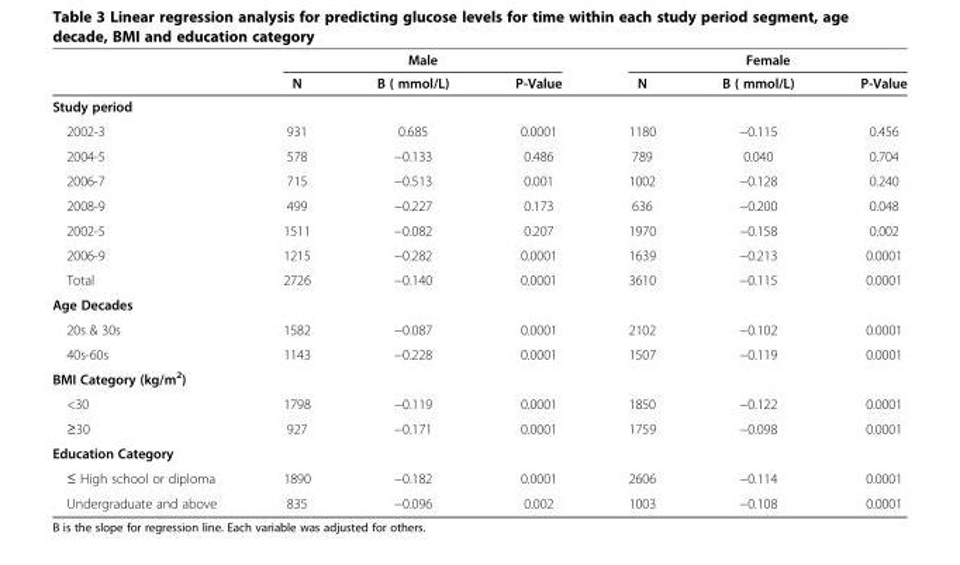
<table><thead><tr><td rowspan="2"></td><td colspan="3">Male</td><td colspan="3">Female</td></tr><tr><td>N</td><td>B ( mmol/L)</td><td>P-Value</td><td>N</td><td>B ( mmol/L)</td><td>P-Value</td></tr></thead><tbody><tr><td colspan="7">Study period</td></tr><tr><td>2002-3</td><td>931</td><td>0.685</td><td>0.0001</td><td>1180</td><td>−0.115</td><td>0.456</td></tr><tr><td>2004-5</td><td>578</td><td>−0.133</td><td>0.486</td><td>789</td><td>0.040</td><td>0.704</td></tr><tr><td>2006-7</td><td>715</td><td>−0.513</td><td>0.001</td><td>1002</td><td>−0.128</td><td>0.240</td></tr><tr><td>2008-9</td><td>499</td><td>−0.227</td><td>0.173</td><td>636</td><td>−0.200</td><td>0.048</td></tr><tr><td>2002-5</td><td>1511</td><td>−0.082</td><td>0.207</td><td>1970</td><td>−0.158</td><td>0.002</td></tr><tr><td>2006-9</td><td>1215</td><td>−0.282</td><td>0.0001</td><td>1639</td><td>−0.213</td><td>0.0001</td></tr><tr><td>Total</td><td>2726</td><td>−0.140</td><td>0.0001</td><td>3610</td><td>−0.115</td><td>0.0001</td></tr><tr><td colspan="7">Age Decades</td></tr><tr><td>20s &amp; 30s</td><td>1582</td><td>−0.087</td><td>0.0001</td><td>2102</td><td>−0.102</td><td>0.0001</td></tr><tr><td>40s-60s</td><td>1143</td><td>−0.228</td><td>0.0001</td><td>1507</td><td>−0.119</td><td>0.0001</td></tr><tr><td colspan="7">BMI Category (kg/m<sup>2</sup>)</td></tr><tr><td>&lt;30</td><td>1798</td><td>−0.119</td><td>0.0001</td><td>1850</td><td>−0.122</td><td>0.0001</td></tr><tr><td>≥30</td><td>927</td><td>−0.171</td><td>0.0001</td><td>1759</td><td>−0.098</td><td>0.0001</td></tr><tr><td colspan="7">Education Category</td></tr><tr><td>≤ High school or diploma</td><td>1890</td><td>−0.182</td><td>0.0001</td><td>2606</td><td>−0.114</td><td>0.0001</td></tr><tr><td>Undergraduate and above</td><td>835</td><td>−0.096</td><td>0.002</td><td>1003</td><td>−0.108</td><td>0.0001</td></tr></tbody></table>